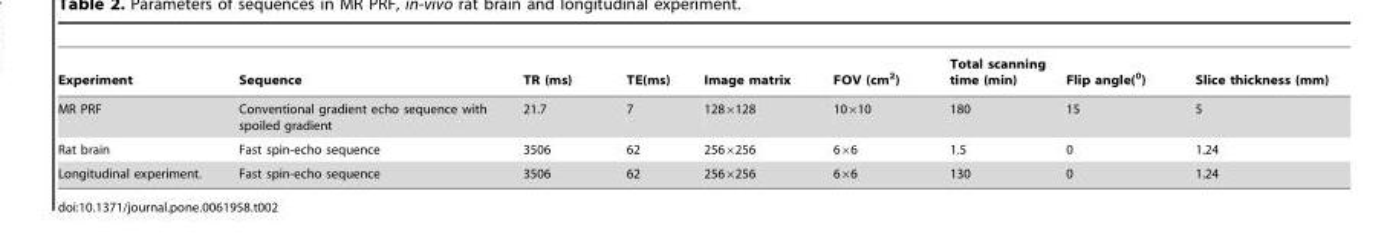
<table><thead><tr><td>Experiment</td><td>Sequence</td><td>TR (ms)</td><td>TE(ms)</td><td>Image matrix</td><td>FOV (cm<sup>2</sup>)</td><td>Total scanning time (min)</td><td>Flip angle(<sup>0</sup>)</td><td>Slice thickness (mm)</td></tr></thead><tbody><tr><td>MR PRF</td><td>Conventional gradient echo sequence with spoiled gradient</td><td>21.7</td><td>7</td><td>128×128</td><td>10×10</td><td>180</td><td>15</td><td>5</td></tr><tr><td>Rat brain</td><td>Fast spin-echo sequence</td><td>3506</td><td>62</td><td>256×256</td><td>6×6</td><td>1.5</td><td>0</td><td>1.24</td></tr><tr><td>Longitudinal experiment.</td><td>Fast spin-echo sequence</td><td>3506</td><td>62</td><td>256×256</td><td>6×6</td><td>130</td><td>0</td><td>1.24</td></tr></tbody></table>